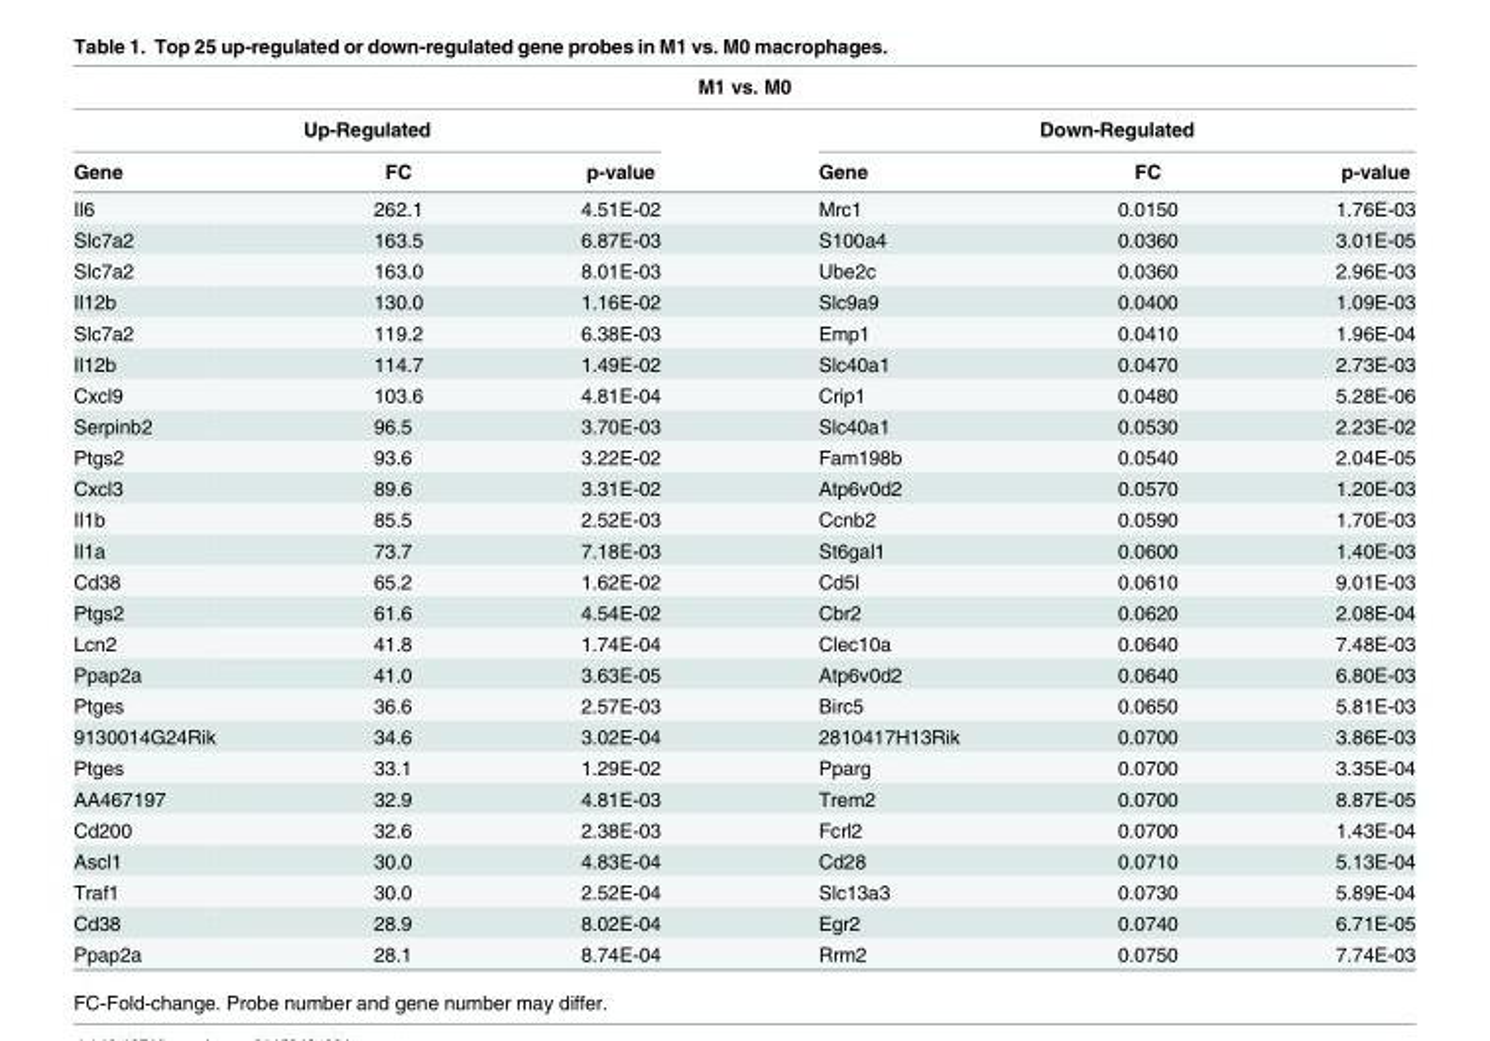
<table><thead><tr><td colspan="6">M1 vs. M0</td></tr><tr><td colspan="3">Up-Regulated</td><td colspan="3">Down-Regulated</td></tr><tr><td>Gene</td><td>FC</td><td>p-value</td><td>Gene</td><td>FC</td><td>p-value</td></tr></thead><tbody><tr><td>Il6</td><td>262.1</td><td>4.51E-02</td><td>Mrc1</td><td>0.0150</td><td>1.76E-03</td></tr><tr><td>Slc7a2</td><td>163.5</td><td>6.87E-03</td><td>S100a4</td><td>0.0360</td><td>3.01E-05</td></tr><tr><td>Slc7a2</td><td>163.0</td><td>8.01E-03</td><td>Ube2c</td><td>0.0360</td><td>2.96E-03</td></tr><tr><td>Il12b</td><td>130.0</td><td>1.16E-02</td><td>Slc9a9</td><td>0.0400</td><td>1.09E-03</td></tr><tr><td>Slc7a2</td><td>119.2</td><td>6.38E-03</td><td>Emp1</td><td>0.0410</td><td>1.96E-04</td></tr><tr><td>Il12b</td><td>114.7</td><td>1.49E-02</td><td>Slc40a1</td><td>0.0470</td><td>2.73E-03</td></tr><tr><td>Cxcl9</td><td>103.6</td><td>4.81E-04</td><td>Crip1</td><td>0.0480</td><td>5.28E-06</td></tr><tr><td>Serpinb2</td><td>96.5</td><td>3.70E-03</td><td>Slc40a1</td><td>0.0530</td><td>2.23E-02</td></tr><tr><td>Ptgs2</td><td>93.6</td><td>3.22E-02</td><td>Fam198b</td><td>0.0540</td><td>2.04E-05</td></tr><tr><td>Cxcl3</td><td>89.6</td><td>3.31E-02</td><td>Atp6v0d2</td><td>0.0570</td><td>1.20E-03</td></tr><tr><td>Il1b</td><td>85.5</td><td>2.52E-03</td><td>Ccnb2</td><td>0.0590</td><td>1.70E-03</td></tr><tr><td>Il1a</td><td>73.7</td><td>7.18E-03</td><td>St6gal1</td><td>0.0600</td><td>1.40E-03</td></tr><tr><td>Cd38</td><td>65.2</td><td>1.62E-02</td><td>Cd5l</td><td>0.0610</td><td>9.01E-03</td></tr><tr><td>Ptgs2</td><td>61.6</td><td>4.54E-02</td><td>Cbr2</td><td>0.0620</td><td>2.08E-04</td></tr><tr><td>Lcn2</td><td>41.8</td><td>1.74E-04</td><td>Clec10a</td><td>0.0640</td><td>7.48E-03</td></tr><tr><td>Ppap2a</td><td>41.0</td><td>3.63E-05</td><td>Atp6v0d2</td><td>0.0640</td><td>6.80E-03</td></tr><tr><td>Ptges</td><td>36.6</td><td>2.57E-03</td><td>Birc5</td><td>0.0650</td><td>5.81E-03</td></tr><tr><td>9130014G24Rik</td><td>34.6</td><td>3.02E-04</td><td>2810417H13Rik</td><td>0.0700</td><td>3.86E-03</td></tr><tr><td>Ptges</td><td>33.1</td><td>1.29E-02</td><td>Pparg</td><td>0.0700</td><td>3.35E-04</td></tr><tr><td>AA467197</td><td>32.9</td><td>4.81E-03</td><td>Trem2</td><td>0.0700</td><td>8.87E-05</td></tr><tr><td>Cd200</td><td>32.6</td><td>2.38E-03</td><td>Fcrl2</td><td>0.0700</td><td>1.43E-04</td></tr><tr><td>Ascl1</td><td>30.0</td><td>4.83E-04</td><td>Cd28</td><td>0.0710</td><td>5.13E-04</td></tr><tr><td>Traf1</td><td>30.0</td><td>2.52E-04</td><td>Slc13a3</td><td>0.0730</td><td>5.89E-04</td></tr><tr><td>Cd38</td><td>28.9</td><td>8.02E-04</td><td>Egr2</td><td>0.0740</td><td>6.71E-05</td></tr><tr><td>Ppap2a</td><td>28.1</td><td>8.74E-04</td><td>Rrm2</td><td>0.0750</td><td>7.74E-03</td></tr></tbody></table>